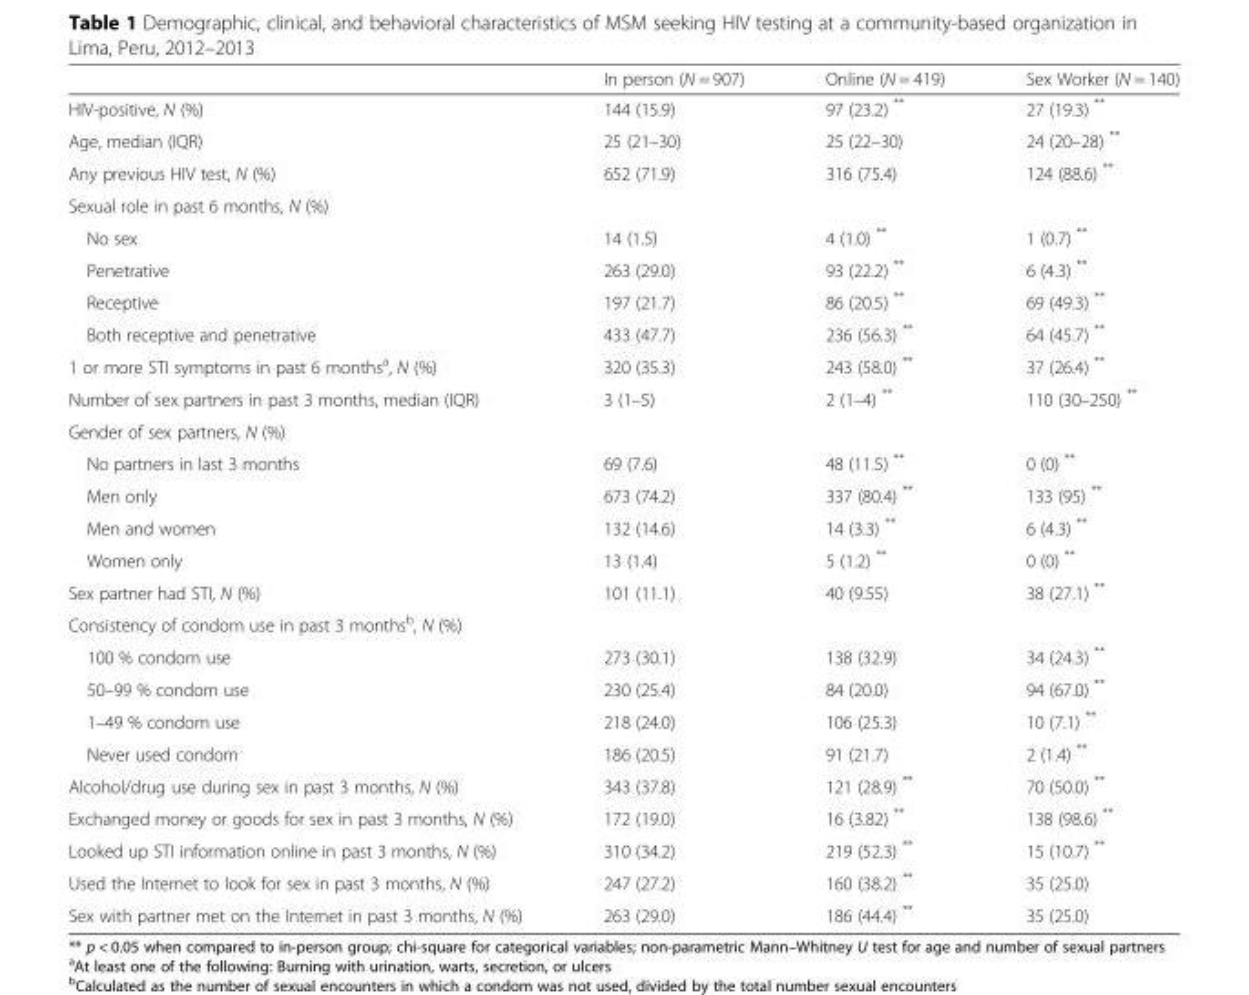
<table><thead><tr><td></td><td>In person (N = 907)</td><td>Online (N = 419)</td><td>Sex Worker (N = 140)</td></tr></thead><tbody><tr><td>HIV-positive, N (%)</td><td>144 (15.9)</td><td>97 (23.2) **</td><td>27 (19.3) **</td></tr><tr><td>Age, median (IQR)</td><td>25 (21–30)</td><td>25 (22–30)</td><td>24 (20–28) **</td></tr><tr><td>Any previous HIV test, N (%)</td><td>652 (71.9)</td><td>316 (75.4)</td><td>124 (88.6) **</td></tr><tr><td colspan="4">Sexual role in past 6 months, N (%)</td></tr><tr><td>No sex</td><td>14 (1.5)</td><td>4 (1.0) **</td><td>1 (0.7) **</td></tr><tr><td>Penetrative</td><td>263 (29.0)</td><td>93 (22.2) **</td><td>6 (4.3) **</td></tr><tr><td>Receptive</td><td>197 (21.7)</td><td>86 (20.5) **</td><td>69 (49.3) **</td></tr><tr><td>Both receptive and penetrative</td><td>433 (47.7)</td><td>236 (56.3) **</td><td>64 (45.7) **</td></tr><tr><td>1 or more STI symptoms in past 6 months<sup>a</sup>, N (%)</td><td>320 (35.3)</td><td>243 (58.0) **</td><td>37 (26.4) **</td></tr><tr><td>Number of sex partners in past 3 months, median (IQR)</td><td>3 (1–5)</td><td>2 (1–4) **</td><td>110 (30–250) **</td></tr><tr><td colspan="4">Gender of sex partners, N (%)</td></tr><tr><td>No partners in last 3 months</td><td>69 (7.6)</td><td>48 (11.5) **</td><td>0 (0) **</td></tr><tr><td>Men only</td><td>673 (74.2)</td><td>337 (80.4) **</td><td>133 (95) **</td></tr><tr><td>Men and women</td><td>132 (14.6)</td><td>14 (3.3) **</td><td>6 (4.3) **</td></tr><tr><td>Women only</td><td>13 (1.4)</td><td>5 (1.2) **</td><td>0 (0) **</td></tr><tr><td>Sex partner had STI, N (%)</td><td>101 (11.1)</td><td>40 (9.55)</td><td>38 (27.1) **</td></tr><tr><td colspan="4">Consistency of condom use in past 3 months<sup>b</sup>, N (%)</td></tr><tr><td>100 % condom use</td><td>273 (30.1)</td><td>138 (32.9)</td><td>34 (24.3) **</td></tr><tr><td>50–99 % condom use</td><td>230 (25.4)</td><td>84 (20.0)</td><td>94 (67.0) **</td></tr><tr><td>1–49 % condom use</td><td>218 (24.0)</td><td>106 (25.3)</td><td>10 (7.1) **</td></tr><tr><td>Never used condom</td><td>186 (20.5)</td><td>91 (21.7)</td><td>2 (1.4) **</td></tr><tr><td>Alcohol/drug use during sex in past 3 months, N (%)</td><td>343 (37.8)</td><td>121 (28.9) **</td><td>70 (50.0) **</td></tr><tr><td>Exchanged money or goods for sex in past 3 months, N (%)</td><td>172 (19.0)</td><td>16 (3.82) **</td><td>138 (98.6) **</td></tr><tr><td>Looked up STI information online in past 3 months, N (%)</td><td>310 (34.2)</td><td>219 (52.3) **</td><td>15 (10.7) **</td></tr><tr><td>Used the Internet to look for sex in past 3 months, N (%)</td><td>247 (27.2)</td><td>160 (38.2) **</td><td>35 (25.0)</td></tr><tr><td>Sex with partner met on the Internet in past 3 months, N (%)</td><td>263 (29.0)</td><td>186 (44.4) **</td><td>35 (25.0)</td></tr></tbody></table>